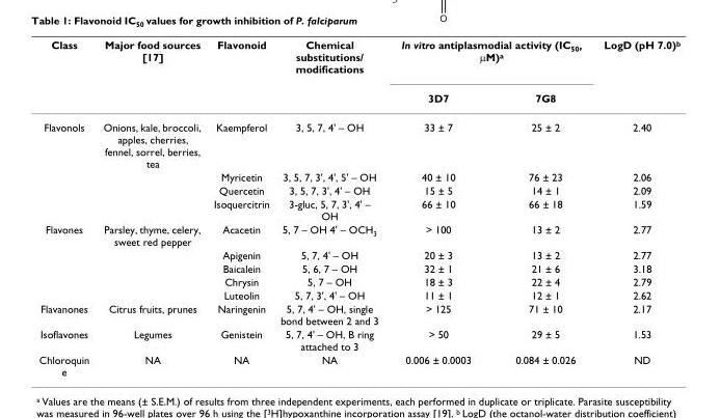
<table><thead><tr><td rowspan="2">Class</td><td rowspan="2">Major food sources [17]</td><td rowspan="2">Flavonoid</td><td rowspan="2">Chemical substitutions/ modifications</td><td colspan="2">In vitro antiplasmodial activity (IC<sub>50</sub>, μM)<sup>a</sup></td><td rowspan="2">LogD (pH 7.0)<sup>b</sup></td></tr><tr><td>3D7</td><td>7G8</td></tr></thead><tbody><tr><td rowspan="4">Flavonols</td><td>Onions, kale, broccoli, apples, cherries, fennel, sorrel, berries, tea</td><td>Kaempferol</td><td>3, 5, 7, 4&#x27; – OH</td><td>33 ± 7</td><td>25 ± 2</td><td>2.40</td></tr><tr><td></td><td>Myricetin</td><td>3, 5, 7, 3&#x27;, 4&#x27;, 5&#x27; – OH</td><td>40 ± 10</td><td>76 ± 23</td><td>2.06</td></tr><tr><td></td><td>Quercetin</td><td>3, 5, 7, 3&#x27;, 4&#x27; – OH</td><td>15 ± 5</td><td>14 ± 1</td><td>2.09</td></tr><tr><td></td><td>Isoquercitrin</td><td>3-gluc, 5, 7, 3&#x27;, 4&#x27; – OH</td><td>66 ± 10</td><td>66 ± 18</td><td>1.59</td></tr><tr><td rowspan="5">Flavones</td><td>Parsley, thyme, celery, sweet red pepper</td><td>Acacetin</td><td>5, 7 – OH 4&#x27; – OCH<sub>3</sub></td><td>&gt; 100</td><td>13 ± 2</td><td>2.77</td></tr><tr><td></td><td>Apigenin</td><td>5, 7, 4&#x27; – OH</td><td>20 ± 3</td><td>13 ± 2</td><td>2.77</td></tr><tr><td></td><td>Baicalein</td><td>5, 6, 7 – OH</td><td>32 ± 1</td><td>21 ± 6</td><td>3.18</td></tr><tr><td></td><td>Chrysin</td><td>5, 7 – OH</td><td>18 ± 3</td><td>22 ± 4</td><td>2.79</td></tr><tr><td></td><td>Luteolin</td><td>5, 7, 3&#x27;, 4&#x27; – OH</td><td>11 ± 1</td><td>12 ± 1</td><td>2.62</td></tr><tr><td>Flavanones</td><td>Citrus fruits, prunes</td><td>Naringenin</td><td>5, 7, 4&#x27; – OH, single bond between 2 and 3</td><td>&gt; 125</td><td>71 ± 10</td><td>2.17</td></tr><tr><td>Isoflavones</td><td>Legumes</td><td>Genistein</td><td>5, 7, 4&#x27; – OH, B ring attached to 3</td><td>&gt; 50</td><td>29 ± 5</td><td>1.53</td></tr><tr><td>Chloroquin e</td><td>NA</td><td>NA</td><td>NA</td><td>0.006 ± 0.0003</td><td>0.084 ± 0.026</td><td>ND</td></tr></tbody></table>